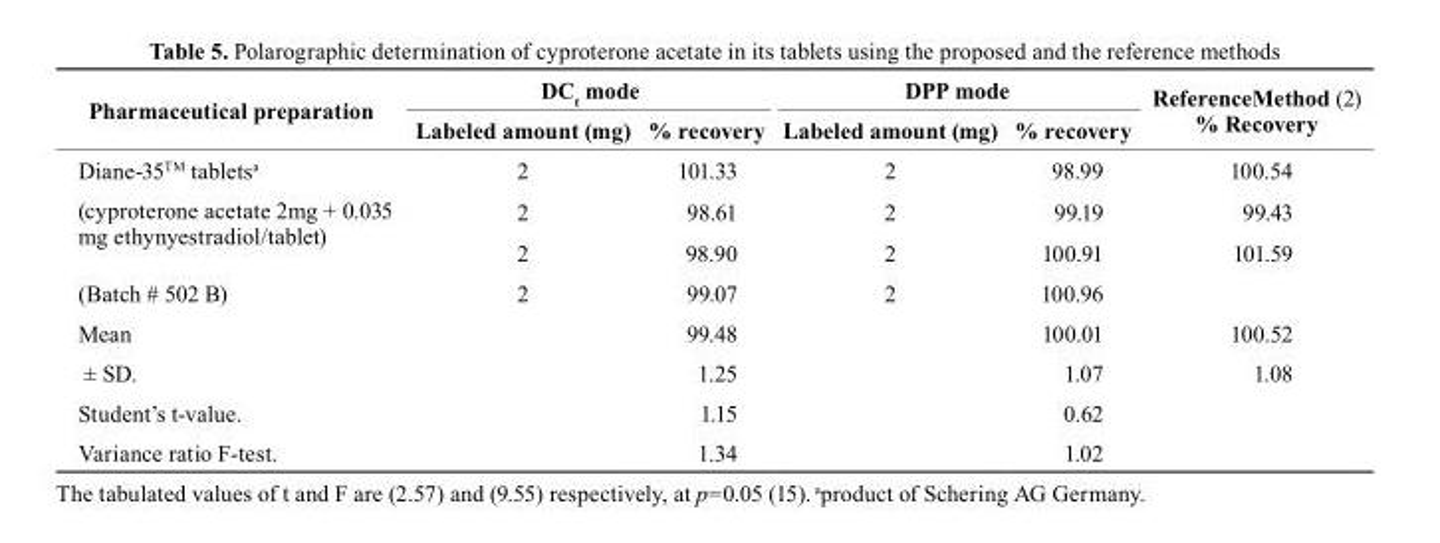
<table><thead><tr><td rowspan="2">Pharmaceutical preparation</td><td colspan="2">Dc<sub>t</sub> mode</td><td colspan="2">DPP mode</td><td rowspan="2">referencemethod (2) % recovery</td></tr><tr><td>Labeled amount (mg)</td><td>% recovery</td><td>Labeled amount (mg)</td><td>% recovery</td></tr></thead><tbody><tr><td>Diane-35TM tablets<sup>a</sup></td><td>2</td><td>101.33</td><td>2</td><td>98.99</td><td>100.54</td></tr><tr><td rowspan="2">(cyproterone acetate 2mg + 0.035 mg ethynyestradiol/tablet)</td><td>2</td><td>98.61</td><td>2</td><td>99.19</td><td>99.43</td></tr><tr><td>2</td><td>98.90</td><td>2</td><td>100.91</td><td>101.59</td></tr><tr><td>(Batch # 502 B)</td><td>2</td><td>99.07</td><td>2</td><td>100.96</td><td></td></tr><tr><td>Mean</td><td></td><td>99.48</td><td></td><td>100.01</td><td>100.52</td></tr><tr><td>± SD.</td><td></td><td>1.25</td><td></td><td>1.07</td><td>1.08</td></tr><tr><td>Student’s t-value.</td><td></td><td>1.15</td><td></td><td>0.62</td><td></td></tr><tr><td>Variance ratio F-test.</td><td></td><td>1.34</td><td></td><td>1.02</td><td></td></tr></tbody></table>